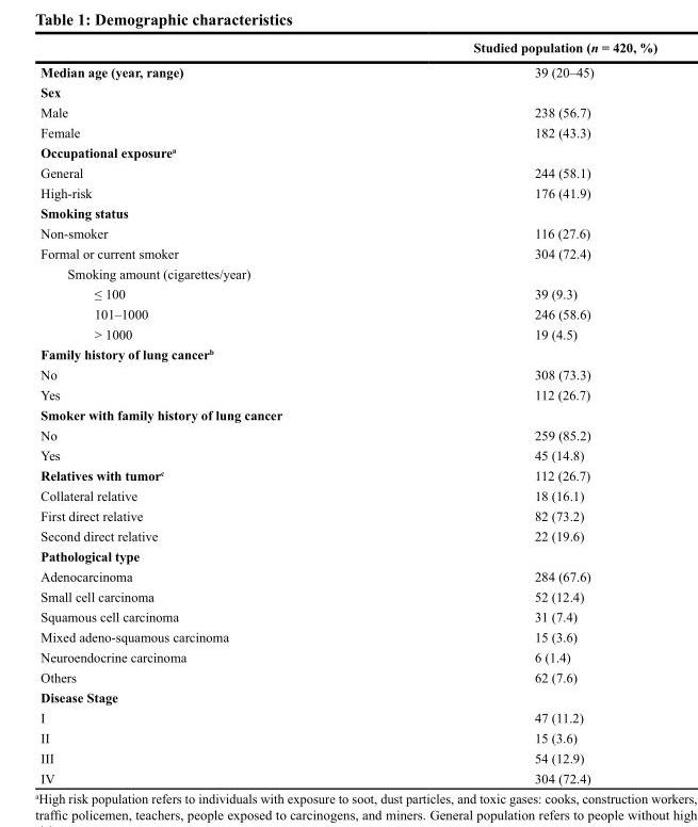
<table><thead><tr><td></td><td>Studied population (n = 420, %)</td></tr></thead><tbody><tr><td>Median age (year, range)</td><td>39 (20–45)</td></tr><tr><td colspan="2">Sex</td></tr><tr><td>Male</td><td>238 (56.7)</td></tr><tr><td>Female</td><td>182 (43.3)</td></tr><tr><td colspan="2">Occupational exposure<sup>a</sup></td></tr><tr><td>General</td><td>244 (58.1)</td></tr><tr><td>High-risk</td><td>176 (41.9)</td></tr><tr><td colspan="2">Smoking status</td></tr><tr><td>Non-smoker</td><td>116 (27.6)</td></tr><tr><td>Formal or current smoker</td><td>304 (72.4)</td></tr><tr><td colspan="2">Smoking amount (cigarettes/year)</td></tr><tr><td>≤ 100</td><td>39 (9.3)</td></tr><tr><td>101–1000</td><td>246 (58.6)</td></tr><tr><td>&gt; 1000</td><td>19 (4.5)</td></tr><tr><td colspan="2">Family history of lung cancer<sup>b</sup></td></tr><tr><td>No</td><td>308 (73.3)</td></tr><tr><td>Yes</td><td>112 (26.7)</td></tr><tr><td colspan="2">Smoker with family history of lung cancer</td></tr><tr><td>No</td><td>259 (85.2)</td></tr><tr><td>Yes</td><td>45 (14.8)</td></tr><tr><td>Relatives with tumor<sup>c</sup></td><td>112 (26.7)</td></tr><tr><td>Collateral relative</td><td>18 (16.1)</td></tr><tr><td>First direct relative</td><td>82 (73.2)</td></tr><tr><td>Second direct relative</td><td>22 (19.6)</td></tr><tr><td colspan="2">Pathological type</td></tr><tr><td>Adenocarcinoma</td><td>284 (67.6)</td></tr><tr><td>Small cell carcinoma</td><td>52 (12.4)</td></tr><tr><td>Squamous cell carcinoma</td><td>31 (7.4)</td></tr><tr><td>Mixed adeno-squamous carcinoma</td><td>15 (3.6)</td></tr><tr><td>Neuroendocrine carcinoma</td><td>6 (1.4)</td></tr><tr><td>Others</td><td>62 (7.6)</td></tr><tr><td colspan="2">Disease Stage</td></tr><tr><td>I</td><td>47 (11.2)</td></tr><tr><td>II</td><td>15 (3.6)</td></tr><tr><td>III</td><td>54 (12.9)</td></tr><tr><td>IV</td><td>304 (72.4)</td></tr></tbody></table>